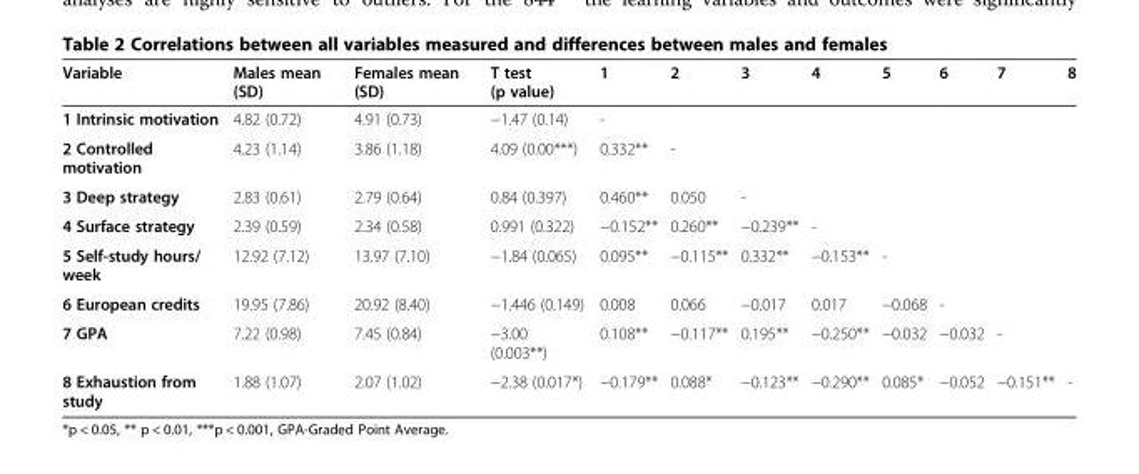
<table><thead><tr><td>Variable</td><td>Males mean (SD)</td><td>Females mean (SD)</td><td>T test (p value)</td><td>1</td><td>2</td><td>3</td><td>4</td><td>5</td><td>6</td><td>7</td><td>8</td></tr></thead><tbody><tr><td>1 Intrinsic motivation</td><td>4.82 (0.72)</td><td>4.91 (0.73)</td><td>−1.47 (0.14)</td><td>-</td><td></td><td></td><td></td><td></td><td></td><td></td><td></td></tr><tr><td>2 Controlled motivation</td><td>4.23 (1.14)</td><td>3.86 (1.18)</td><td>4.09 (0.00***)</td><td>0.332**</td><td>-</td><td></td><td></td><td></td><td></td><td></td><td></td></tr><tr><td>3 Deep strategy</td><td>2.83 (0.61)</td><td>2.79 (0.64)</td><td>0.84 (0.397)</td><td>0.460**</td><td>0.050</td><td>-</td><td></td><td></td><td></td><td></td><td></td></tr><tr><td>4 Surface strategy</td><td>2.39 (0.59)</td><td>2.34 (0.58)</td><td>0.991 (0.322)</td><td>−0.152**</td><td>0.260**</td><td>−0.239**</td><td>-</td><td></td><td></td><td></td><td></td></tr><tr><td>5 Self-study hours/ week</td><td>12.92 (7.12)</td><td>13.97 (7.10)</td><td>−1.84 (0.065)</td><td>0.095**</td><td>−0.115**</td><td>0.332**</td><td>−0.153**</td><td>-</td><td></td><td></td><td></td></tr><tr><td>6 European credits</td><td>19.95 (7.86)</td><td>20.92 (8.40)</td><td>−1.446 (0.149)</td><td>0.008</td><td>0.066</td><td>−0.017</td><td>0.017</td><td>−0.068</td><td>-</td><td></td><td></td></tr><tr><td>7 GPA</td><td>7.22 (0.98)</td><td>7.45 (0.84)</td><td>−3.00 (0.003**)</td><td>0.108**</td><td>−0.117**</td><td>0.195**</td><td>−0.250**</td><td>−0.032</td><td>−0.032</td><td>-</td><td></td></tr><tr><td>8 Exhaustion from study</td><td>1.88 (1.07)</td><td>2.07 (1.02)</td><td>−2.38 (0.017*)</td><td>−0.179**</td><td>0.088*</td><td>−0.123**</td><td>−0.290**</td><td>0.085*</td><td>−0.052</td><td>−0.151**</td><td>-</td></tr></tbody></table>